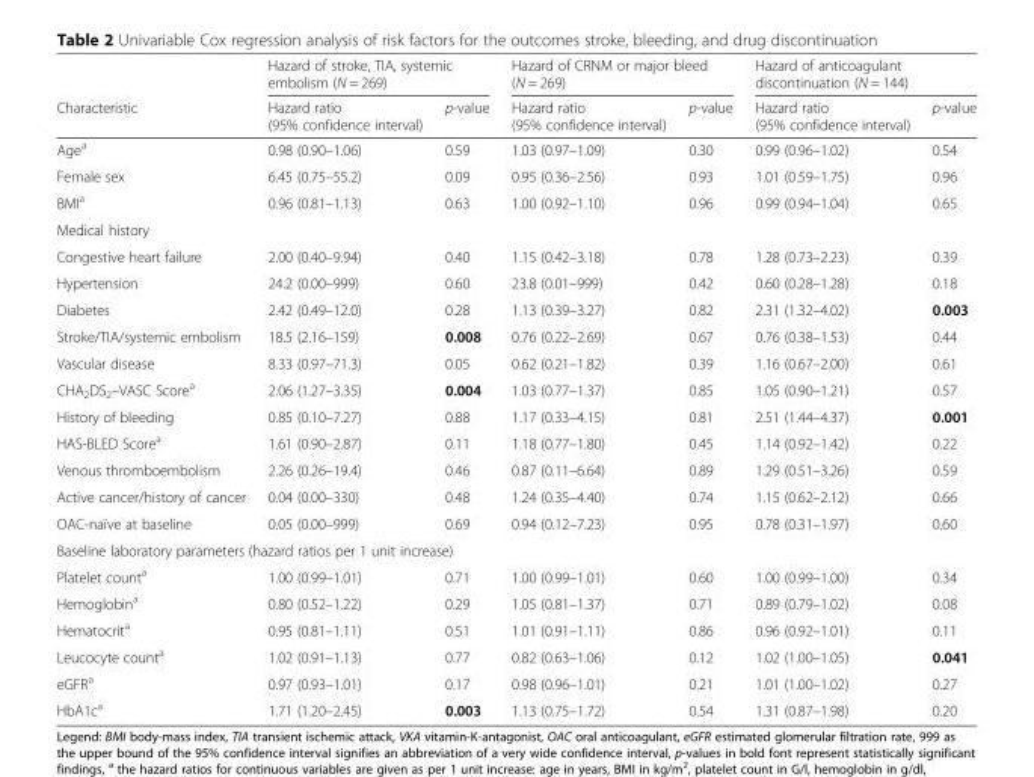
<table><thead><tr><td rowspan="2">Characteristic</td><td colspan="2">Hazard of stroke, TIA, systemic embolism (N = 269)</td><td colspan="2">Hazard of CRNM or major bleed (N = 269)</td><td colspan="2">Hazard of anticoagulant discontinuation (N = 144)</td></tr><tr><td>Hazard ratio (95% confidence interval)</td><td>p-value</td><td>Hazard ratio (95% confidence interval)</td><td>p-value</td><td>Hazard ratio (95% confidence interval)</td><td>p-value</td></tr></thead><tbody><tr><td>Age<sup>a</sup></td><td>0.98 (0.90–1.06)</td><td>0.59</td><td>1.03 (0.97–1.09)</td><td>0.30</td><td>0.99 (0.96–1.02)</td><td>0.54</td></tr><tr><td>Female sex</td><td>6.45 (0.75–55.2)</td><td>0.09</td><td>0.95 (0.36–2.56)</td><td>0.93</td><td>1.01 (0.59–1.75)</td><td>0.96</td></tr><tr><td>BMI<sup>a</sup></td><td>0.96 (0.81–1.13)</td><td>0.63</td><td>1.00 (0.92–1.10)</td><td>0.96</td><td>0.99 (0.94–1.04)</td><td>0.65</td></tr><tr><td colspan="7">Medical history</td></tr><tr><td>Congestive heart failure</td><td>2.00 (0.40–9.94)</td><td>0.40</td><td>1.15 (0.42–3.18)</td><td>0.78</td><td>1.28 (0.73–2.23)</td><td>0.39</td></tr><tr><td>Hypertension</td><td>24.2 (0.00–999)</td><td>0.60</td><td>23.8 (0.01–999)</td><td>0.42</td><td>0.60 (0.28–1.28)</td><td>0.18</td></tr><tr><td>Diabetes</td><td>2.42 (0.49–12.0)</td><td>0.28</td><td>1.13 (0.39–3.27)</td><td>0.82</td><td>2.31 (1.32–4.02)</td><td>0.003</td></tr><tr><td>Stroke/TIA/systemic embolism</td><td>18.5 (2.16–159)</td><td>0.008</td><td>0.76 (0.22–2.69)</td><td>0.67</td><td>0.76 (0.38–1.53)</td><td>0.44</td></tr><tr><td>Vascular disease</td><td>8.33 (0.97–71.3)</td><td>0.05</td><td>0.62 (0.21–1.82)</td><td>0.39</td><td>1.16 (0.67–2.00)</td><td>0.61</td></tr><tr><td>CHA<sub>2</sub>DS<sub>2</sub>–VASC Score<sup>a</sup></td><td>2.06 (1.27–3.35)</td><td>0.004</td><td>1.03 (0.77–1.37)</td><td>0.85</td><td>1.05 (0.90–1.21)</td><td>0.57</td></tr><tr><td>History of bleeding</td><td>0.85 (0.10–7.27)</td><td>0.88</td><td>1.17 (0.33–4.15)</td><td>0.81</td><td>2.51 (1.44–4.37)</td><td>0.001</td></tr><tr><td>HAS-BLED Score<sup>a</sup></td><td>1.61 (0.90–2.87)</td><td>0.11</td><td>1.18 (0.77–1.80)</td><td>0.45</td><td>1.14 (0.92–1.42)</td><td>0.22</td></tr><tr><td>Venous thromboembolism</td><td>2.26 (0.26–19.4)</td><td>0.46</td><td>0.87 (0.11–6.64)</td><td>0.89</td><td>1.29 (0.51–3.26)</td><td>0.59</td></tr><tr><td>Active cancer/history of cancer</td><td>0.04 (0.00–330)</td><td>0.48</td><td>1.24 (0.35–4.40)</td><td>0.74</td><td>1.15 (0.62–2.12)</td><td>0.66</td></tr><tr><td>OAC-naïve at baseline</td><td>0.05 (0.00–999)</td><td>0.69</td><td>0.94 (0.12–7.23)</td><td>0.95</td><td>0.78 (0.31–1.97)</td><td>0.60</td></tr><tr><td colspan="7">Baseline laboratory parameters (hazard ratios per 1 unit increase)</td></tr><tr><td>Platelet count<sup>a</sup></td><td>1.00 (0.99–1.01)</td><td>0.71</td><td>1.00 (0.99–1.01)</td><td>0.60</td><td>1.00 (0.99–1.00)</td><td>0.34</td></tr><tr><td>Hemoglobin<sup>a</sup></td><td>0.80 (0.52–1.22)</td><td>0.29</td><td>1.05 (0.81–1.37)</td><td>0.71</td><td>0.89 (0.79–1.02)</td><td>0.08</td></tr><tr><td>Hematocrit<sup>a</sup></td><td>0.95 (0.81–1.11)</td><td>0.51</td><td>1.01 (0.91–1.11)</td><td>0.86</td><td>0.96 (0.92–1.01)</td><td>0.11</td></tr><tr><td>Leucocyte count<sup>a</sup></td><td>1.02 (0.91–1.13)</td><td>0.77</td><td>0.82 (0.63–1.06)</td><td>0.12</td><td>1.02 (1.00–1.05)</td><td>0.041</td></tr><tr><td>eGFR<sup>a</sup></td><td>0.97 (0.93–1.01)</td><td>0.17</td><td>0.98 (0.96–1.01)</td><td>0.21</td><td>1.01 (1.00–1.02)</td><td>0.27</td></tr><tr><td>HbA1c<sup>a</sup></td><td>1.71 (1.20–2.45)</td><td>0.003</td><td>1.13 (0.75–1.72)</td><td>0.54</td><td>1.31 (0.87–1.98)</td><td>0.20</td></tr></tbody></table>